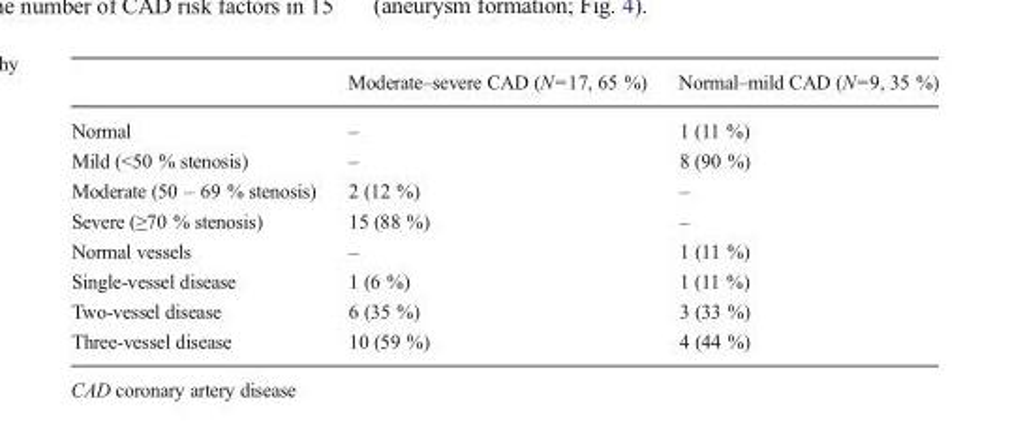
<table><thead><tr><td></td><td>Moderate–severe CAD (N=17, 65 %)</td><td>Normal–mild CAD (N=9, 35 %)</td></tr></thead><tbody><tr><td>Normal</td><td>–</td><td>1 (11 %)</td></tr><tr><td>Mild (&lt;50 % stenosis)</td><td>–</td><td>8 (90 %)</td></tr><tr><td>Moderate (50 – 69 % stenosis)</td><td>2 (12 %)</td><td>–</td></tr><tr><td>Severe (≥70 % stenosis)</td><td>15 (88 %)</td><td>–</td></tr><tr><td>Normal vessels</td><td>–</td><td>1 (11 %)</td></tr><tr><td>Single-vessel disease</td><td>1 (6 %)</td><td>1 (11 %)</td></tr><tr><td>Two-vessel disease</td><td>6 (35 %)</td><td>3 (33 %)</td></tr><tr><td>Three-vessel disease</td><td>10 (59 %)</td><td>4 (44 %)</td></tr></tbody></table>